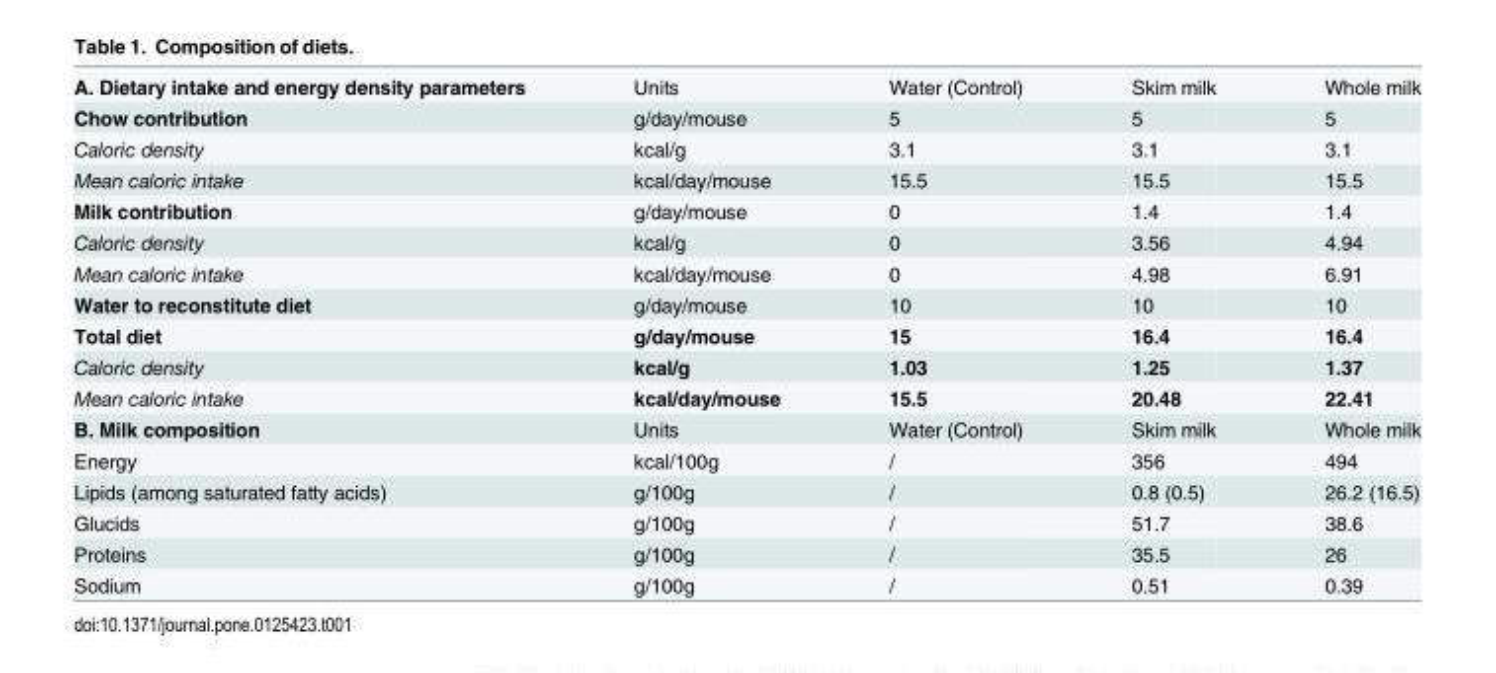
<table><tbody><tr><td>A. Dietary intake and energy density parameters</td><td>Units</td><td>Water (Control)</td><td>Skim milk</td><td>Whole milk</td></tr><tr><td>Chow contribution</td><td>g/day/mouse</td><td>5</td><td>5</td><td>5</td></tr><tr><td>Caloric density</td><td>kcal/g</td><td>3.1</td><td>3.1</td><td>3.1</td></tr><tr><td>Mean caloric intake</td><td>kcal/day/mouse</td><td>15.5</td><td>15.5</td><td>15.5</td></tr><tr><td>Milk contribution</td><td>g/day/mouse</td><td>0</td><td>1.4</td><td>1.4</td></tr><tr><td>Caloric density</td><td>kcal/g</td><td>0</td><td>3.56</td><td>4.94</td></tr><tr><td>Mean caloric intake</td><td>kcal/day/mouse</td><td>0</td><td>4.98</td><td>6.91</td></tr><tr><td>Water to reconstitute diet</td><td>g/day/mouse</td><td>10</td><td>10</td><td>10</td></tr><tr><td>Total diet</td><td>g/day/mouse</td><td>15</td><td>16.4</td><td>16.4</td></tr><tr><td>Caloric density</td><td>kcal/g</td><td>1.03</td><td>1.25</td><td>1.37</td></tr><tr><td>Mean caloric intake</td><td>kcal/day/mouse</td><td>15.5</td><td>20.48</td><td>22.41</td></tr><tr><td>B. Milk composition</td><td>Units</td><td>Water (Control)</td><td>Skim milk</td><td>Whole milk</td></tr><tr><td>Energy</td><td>kcal/100g</td><td>/</td><td>356</td><td>494</td></tr><tr><td>Lipids (among saturated fatty acids)</td><td>g/100g</td><td>/</td><td>0.8 (0.5)</td><td>26.2 (16.5)</td></tr><tr><td>Glucids</td><td>g/100g</td><td>/</td><td>51.7</td><td>38.6</td></tr><tr><td>Proteins</td><td>g/100g</td><td>/</td><td>35.5</td><td>26</td></tr><tr><td>Sodium</td><td>g/100g</td><td>/</td><td>0.51</td><td>0.39</td></tr></tbody></table>